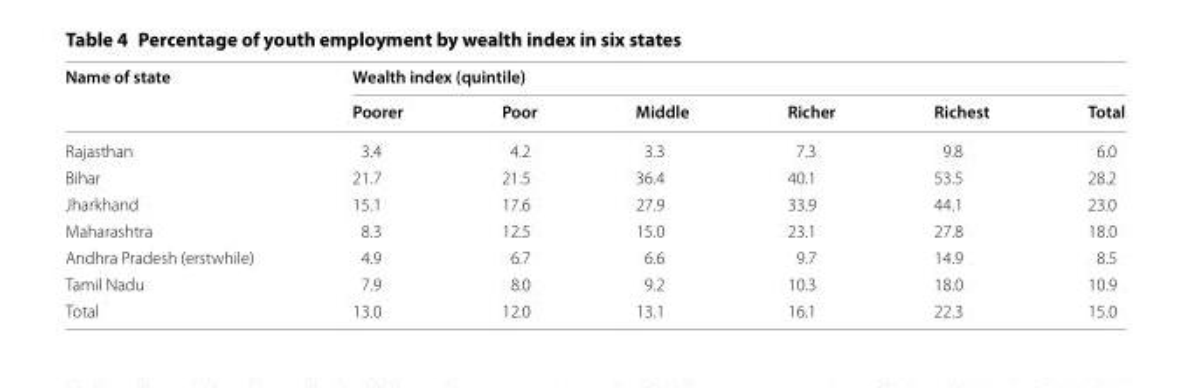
<table><thead><tr><td rowspan="2">Name of state</td><td colspan="6">Wealth index (quintile)</td></tr><tr><td>Poorer</td><td>Poor</td><td>Middle</td><td>Richer</td><td>Richest</td><td>Total</td></tr></thead><tbody><tr><td>Rajasthan</td><td>3.4</td><td>4.2</td><td>3.3</td><td>7.3</td><td>9.8</td><td>6.0</td></tr><tr><td>Bihar</td><td>21.7</td><td>21.5</td><td>36.4</td><td>40.1</td><td>53.5</td><td>28.2</td></tr><tr><td>Jharkhand</td><td>15.1</td><td>17.6</td><td>27.9</td><td>33.9</td><td>44.1</td><td>23.0</td></tr><tr><td>Maharashtra</td><td>8.3</td><td>12.5</td><td>15.0</td><td>23.1</td><td>27.8</td><td>18.0</td></tr><tr><td>Andhra Pradesh (erstwhile)</td><td>4.9</td><td>6.7</td><td>6.6</td><td>9.7</td><td>14.9</td><td>8.5</td></tr><tr><td>Tamil Nadu</td><td>7.9</td><td>8.0</td><td>9.2</td><td>10.3</td><td>18.0</td><td>10.9</td></tr><tr><td>Total</td><td>13.0</td><td>12.0</td><td>13.1</td><td>16.1</td><td>22.3</td><td>15.0</td></tr></tbody></table>